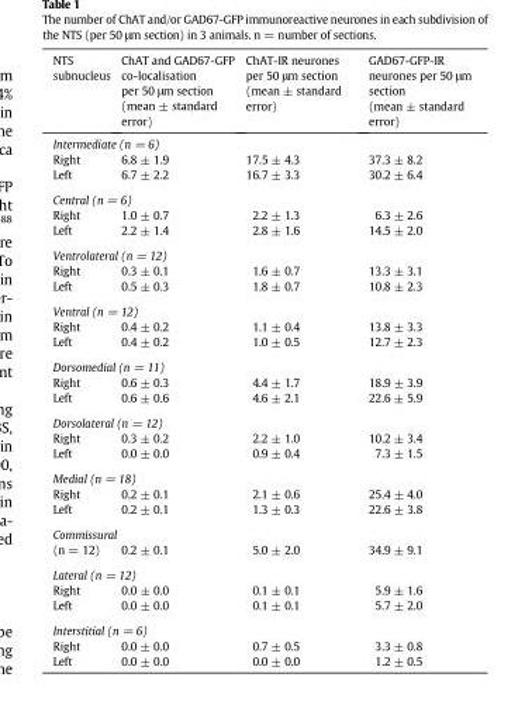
<table><thead><tr><td>NTS subnucleus</td><td>ChAT and GAD67-GFP co-localisation per 50 μm section (mean ± standard error)</td><td>ChAT-IR neurones per 50 μm section (mean ± standard error)</td><td>GAD67-GFP-IR neurones per 50 μm section (mean ± standard error)</td></tr></thead><tbody><tr><td colspan="4">Intermediate (n = 6)</td></tr><tr><td>Right</td><td>6.8 ± 1.9</td><td>17.5 ± 4.3</td><td>37.3 ± 8.2</td></tr><tr><td>Left</td><td>6.7 ± 2.2</td><td>16.7 ± 3.3</td><td>30.2 ± 6.4</td></tr><tr><td colspan="4">Central (n = 6)</td></tr><tr><td>Right</td><td>1.0 ± 0.7</td><td>2.2 ± 1.3</td><td>6.3 ± 2.6</td></tr><tr><td>Left</td><td>2.2 ± 1.4</td><td>2.8 ± 1.6</td><td>14.5 ± 2.0</td></tr><tr><td colspan="4">Ventrolateral (n = 12)</td></tr><tr><td>Right</td><td>0.3 ± 0.1</td><td>1.6 ± 0.7</td><td>13.3 ± 3.1</td></tr><tr><td>Left</td><td>0.5 ± 0.3</td><td>1.8 ± 0.7</td><td>10.8 ± 2.3</td></tr><tr><td colspan="4">Ventral (n = 12)</td></tr><tr><td>Right</td><td>0.4 ± 0.2</td><td>1.1 ± 0.4</td><td>13.8 ± 3.3</td></tr><tr><td>Left</td><td>0.4 ± 0.2</td><td>1.0 ± 0.5</td><td>12.7 ± 2.3</td></tr><tr><td colspan="4">Dorsomedial (n = 11)</td></tr><tr><td>Right</td><td>0.6 ± 0.3</td><td>4.4 ± 1.7</td><td>18.9 ± 3.9</td></tr><tr><td>Left</td><td>0.6 ± 0.6</td><td>4.6 ± 2.1</td><td>22.6 ± 5.9</td></tr><tr><td colspan="4">Dorsolateral (n = 12)</td></tr><tr><td>Right</td><td>0.3 ± 0.2</td><td>2.2 ± 1.0</td><td>10.2 ± 3.4</td></tr><tr><td>Left</td><td>0.0 ± 0.0</td><td>0.9 ± 0.4</td><td>7.3 ± 1.5</td></tr><tr><td colspan="4">Medial (n = 18)</td></tr><tr><td>Right</td><td>0.2 ± 0.1</td><td>2.1 ± 0.6</td><td>25.4 ± 4.0</td></tr><tr><td>Left</td><td>0.2 ± 0.1</td><td>1.3 ± 0.3</td><td>22.6 ± 3.8</td></tr><tr><td colspan="4">Commissural</td></tr><tr><td>(n = 12)</td><td>0.2 ± 0.1</td><td>5.0 ± 2.0</td><td>34.9 ± 9.1</td></tr><tr><td colspan="4">Lateral (n = 12)</td></tr><tr><td>Right</td><td>0.0 ± 0.0</td><td>0.1 ± 0.1</td><td>5.9 ± 1.6</td></tr><tr><td>Left</td><td>0.0 ± 0.0</td><td>0.1 ± 0.1</td><td>5.7 ± 2.0</td></tr><tr><td colspan="4">Interstitial (n = 6)</td></tr><tr><td>Right</td><td>0.0 ± 0.0</td><td>0.7 ± 0.5</td><td>3.3 ± 0.8</td></tr><tr><td>Left</td><td>0.0 ± 0.0</td><td>0.0 ± 0.0</td><td>1.2 ± 0.5</td></tr></tbody></table>